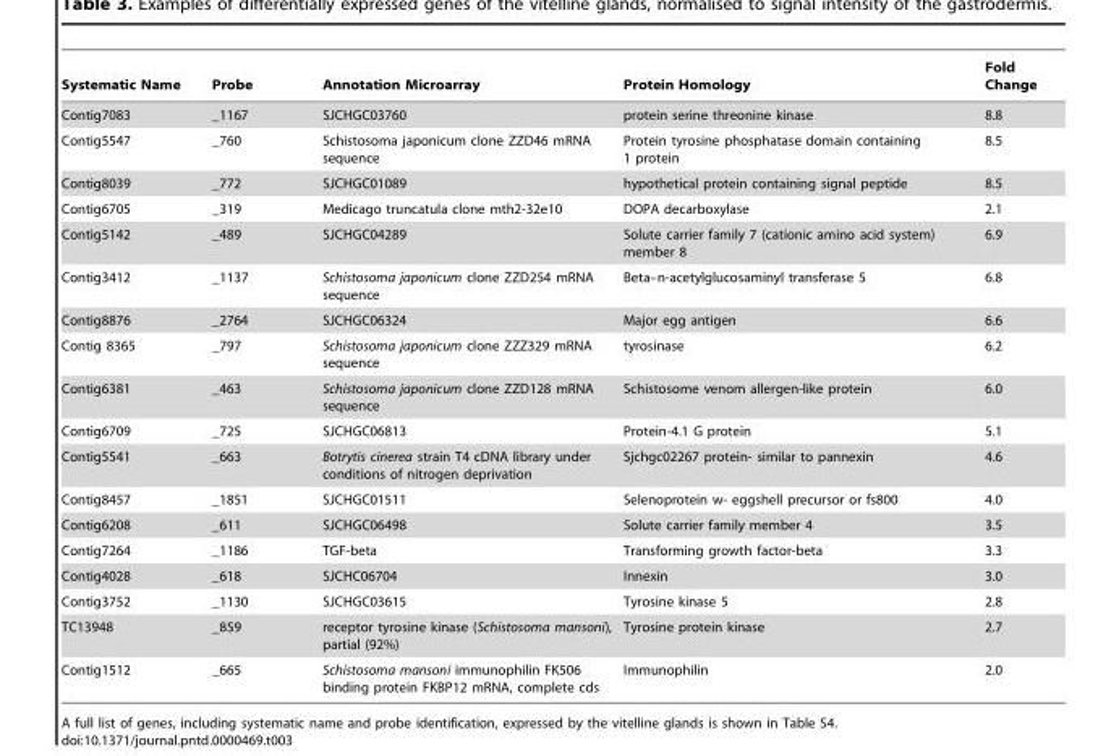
<table><thead><tr><td>Systematic Name</td><td>Probe</td><td>Annotation Microarray</td><td>Protein Homology</td><td>Fold Change</td></tr></thead><tbody><tr><td>Contig7083</td><td>_1167</td><td>SJCHGC03760</td><td>protein serine threonine kinase</td><td>8.8</td></tr><tr><td>Contig5547</td><td>_760</td><td>Schistosoma japonicum clone ZZD46 mRNA sequence</td><td>Protein tyrosine phosphatase domain containing 1 protein</td><td>8.5</td></tr><tr><td>Contig8039</td><td>_772</td><td>SJCHGC01089</td><td>hypothetical protein containing signal peptide</td><td>8.5</td></tr><tr><td>Contig6705</td><td>_319</td><td>Medicago truncatula clone mth2-32e10</td><td>DOPA decarboxylase</td><td>2.1</td></tr><tr><td>Contig5142</td><td>_489</td><td>SJCHGC04289</td><td>Solute carrier family 7 (cationic amino acid system) member 8</td><td>6.9</td></tr><tr><td>Contig3412</td><td>_1137</td><td>Schistosoma japonicum clone ZZD254 mRNA sequence</td><td>Beta–n-acetylglucosaminyl transferase 5</td><td>6.8</td></tr><tr><td>Contig8876</td><td>_2764</td><td>SJCHGC06324</td><td>Major egg antigen</td><td>6.6</td></tr><tr><td>Contig 8365</td><td>_797</td><td>Schistosoma japonicum clone ZZZ329 mRNA sequence</td><td>tyrosinase</td><td>6.2</td></tr><tr><td>Contig6381</td><td>_463</td><td>Schistosoma japonicum clone ZZD128 mRNA sequence</td><td>Schistosome venom allergen-like protein</td><td>6.0</td></tr><tr><td>Contig6709</td><td>_725</td><td>SJCHGC06813</td><td>Protein-4.1 G protein</td><td>5.1</td></tr><tr><td>Contig5541</td><td>_663</td><td>Botrytis cinerea strain T4 cDNA library under conditions of nitrogen deprivation</td><td>Sjchgc02267 protein- similar to pannexin</td><td>4.6</td></tr><tr><td>Contig8457</td><td>_1851</td><td>SJCHGC01511</td><td>Selenoprotein w- eggshell precursor or fs800</td><td>4.0</td></tr><tr><td>Contig6208</td><td>_611</td><td>SJCHGC06498</td><td>Solute carrier family member 4</td><td>3.5</td></tr><tr><td>Contig7264</td><td>_1186</td><td>TGF-beta</td><td>Transforming growth factor-beta</td><td>3.3</td></tr><tr><td>Contig4028</td><td>_618</td><td>SJCHC06704</td><td>Innexin</td><td>3.0</td></tr><tr><td>Contig3752</td><td>_1130</td><td>SJCHGC03615</td><td>Tyrosine kinase 5</td><td>2.8</td></tr><tr><td>TC13948</td><td>_859</td><td>receptor tyrosine kinase (Schistosoma mansoni), partial (92%)</td><td>Tyrosine protein kinase</td><td>2.7</td></tr><tr><td>Contig1512</td><td>_665</td><td>Schistosoma mansoni immunophilin FK506 binding protein FKBP12 mRNA, complete cds</td><td>Immunophilin</td><td>2.0</td></tr></tbody></table>